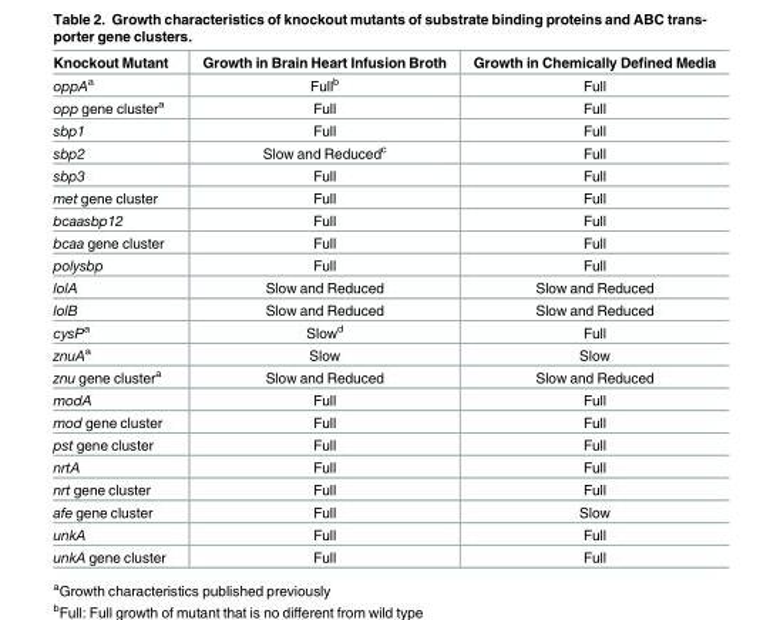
<table><thead><tr><td>Knockout Mutant</td><td>Growth in Brain Heart Infusion Broth</td><td>Growth in Chemically Defined Media</td></tr></thead><tbody><tr><td>oppA<sup>a</sup></td><td>Full<sup>b</sup></td><td>Full</td></tr><tr><td>opp gene cluster<sup>a</sup></td><td>Full</td><td>Full</td></tr><tr><td>sbp1</td><td>Full</td><td>Full</td></tr><tr><td>sbp2</td><td>Slow and Reduced<sup>c</sup></td><td>Full</td></tr><tr><td>sbp3</td><td>Full</td><td>Full</td></tr><tr><td>met gene cluster</td><td>Full</td><td>Full</td></tr><tr><td>bcaasbp12</td><td>Full</td><td>Full</td></tr><tr><td>bcaa gene cluster</td><td>Full</td><td>Full</td></tr><tr><td>polysbp</td><td>Full</td><td>Full</td></tr><tr><td>lolA</td><td>Slow and Reduced</td><td>Slow and Reduced</td></tr><tr><td>lolB</td><td>Slow and Reduced</td><td>Slow and Reduced</td></tr><tr><td>cysP<sup>a</sup></td><td>Slow<sup>d</sup></td><td>Full</td></tr><tr><td>znuA<sup>a</sup></td><td>Slow</td><td>Slow</td></tr><tr><td>znu gene cluster<sup>a</sup></td><td>Slow and Reduced</td><td>Slow and Reduced</td></tr><tr><td>modA</td><td>Full</td><td>Full</td></tr><tr><td>mod gene cluster</td><td>Full</td><td>Full</td></tr><tr><td>pst gene cluster</td><td>Full</td><td>Full</td></tr><tr><td>nrtA</td><td>Full</td><td>Full</td></tr><tr><td>nrt gene cluster</td><td>Full</td><td>Full</td></tr><tr><td>afe gene cluster</td><td>Full</td><td>Slow</td></tr><tr><td>unkA</td><td>Full</td><td>Full</td></tr><tr><td>unkA gene cluster</td><td>Full</td><td>Full</td></tr></tbody></table>